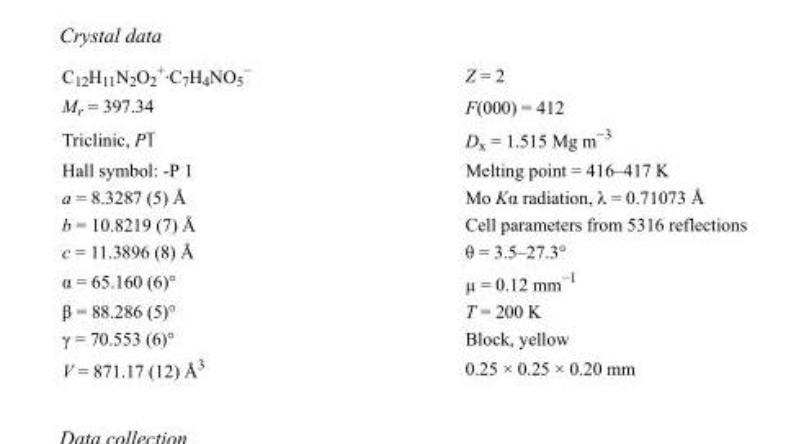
<table><tbody><tr><td>C<sub>12</sub>H<sub>11</sub>N<sub>2</sub>O<sub>2</sub> <sup>+</sup>·C<sub>7</sub>H<sub>4</sub>NO<sub>5</sub> <sup>−</sup></td><td>Z = 2</td></tr><tr><td>M<sub>r</sub> = 397.34</td><td>F(000) = 412</td></tr><tr><td>Triclinic, P1</td><td>D<sub>x</sub> = 1.515 Mg m<sup>−3</sup></td></tr><tr><td>Hall symbol: -P 1</td><td>Melting point = 416–417 K</td></tr><tr><td>a = 8.3287 (5) Å</td><td>Mo Kα radiation, λ = 0.71073 Å</td></tr><tr><td>b = 10.8219 (7) Å</td><td>Cell parameters from 5316 reflections</td></tr><tr><td>c = 11.3896 (8) Å</td><td>θ = 3.5–27.3°</td></tr><tr><td>α = 65.160 (6)°</td><td>µ = 0.12 mm<sup>−1</sup></td></tr><tr><td>β = 88.286 (5)°</td><td>T = 200 K</td></tr><tr><td>γ = 70.553 (6)°</td><td>Block, yellow</td></tr><tr><td>V = 871.17 (12) Å<sup>3</sup></td><td>0.25 × 0.25 × 0.20 mm</td></tr></tbody></table>